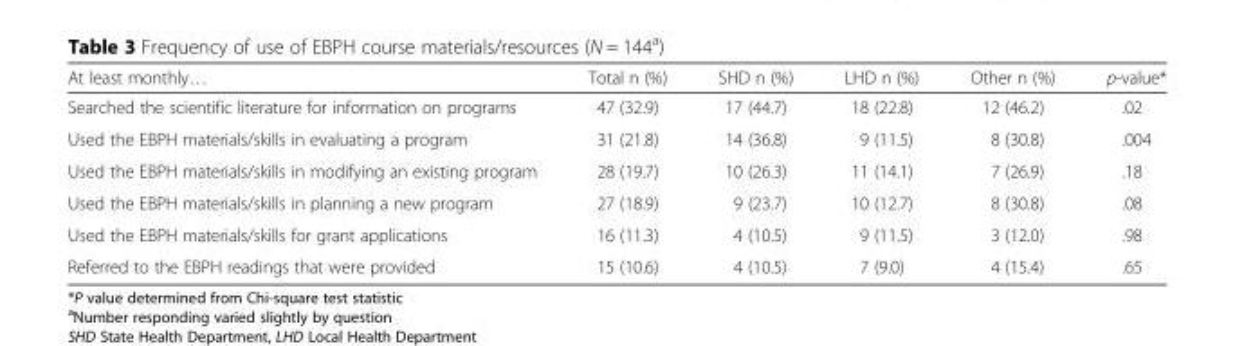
<table><thead><tr><td>At least monthly…</td><td>Total n (%)</td><td>SHD n (%)</td><td>LHD n (%)</td><td>Other n (%)</td><td>p-value*</td></tr></thead><tbody><tr><td>Searched the scientific literature for information on programs</td><td>47 (32.9)</td><td>17 (44.7)</td><td>18 (22.8)</td><td>12 (46.2)</td><td>.02</td></tr><tr><td>Used the EBPH materials/skills in evaluating a program</td><td>31 (21.8)</td><td>14 (36.8)</td><td>9 (11.5)</td><td>8 (30.8)</td><td>.004</td></tr><tr><td>Used the EBPH materials/skills in modifying an existing program</td><td>28 (19.7)</td><td>10 (26.3)</td><td>11 (14.1)</td><td>7 (26.9)</td><td>.18</td></tr><tr><td>Used the EBPH materials/skills in planning a new program</td><td>27 (18.9)</td><td>9 (23.7)</td><td>10 (12.7)</td><td>8 (30.8)</td><td>.08</td></tr><tr><td>Used the EBPH materials/skills for grant applications</td><td>16 (11.3)</td><td>4 (10.5)</td><td>9 (11.5)</td><td>3 (12.0)</td><td>.98</td></tr><tr><td>Referred to the EBPH readings that were provided</td><td>15 (10.6)</td><td>4 (10.5)</td><td>7 (9.0)</td><td>4 (15.4)</td><td>.65</td></tr></tbody></table>